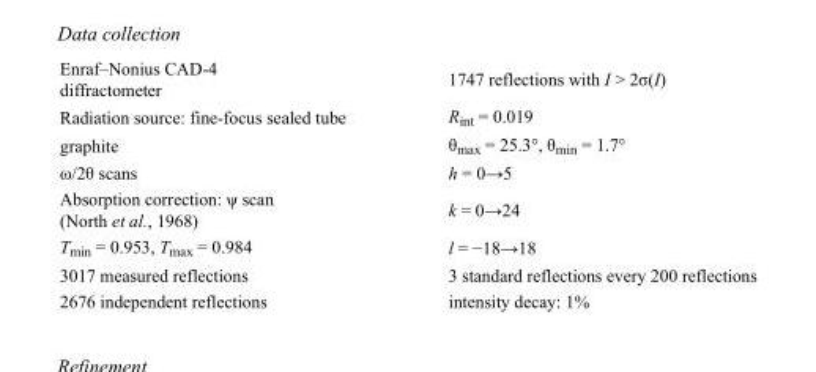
<table><tbody><tr><td>Enraf–Nonius CAD-4 diffractometer</td><td>1747 reflections with I &gt; 2σ(I)</td></tr><tr><td>Radiation source: fine-focus sealed tube</td><td>R<sub>int</sub> = 0.019</td></tr><tr><td>graphite</td><td>θ<sub>max</sub> = 25.3°, θ<sub>min</sub> = 1.7°</td></tr><tr><td>ω/2θ scans</td><td>h = 0→5</td></tr><tr><td>Absorption correction: ψ scan (North et al., 1968)</td><td>k = 0→24</td></tr><tr><td>T<sub>min</sub> = 0.953, T<sub>max</sub> = 0.984</td><td>l = −18→18</td></tr><tr><td>3017 measured reflections</td><td>3 standard reflections every 200 reflections</td></tr><tr><td>2676 independent reflections</td><td>intensity decay: 1%</td></tr></tbody></table>